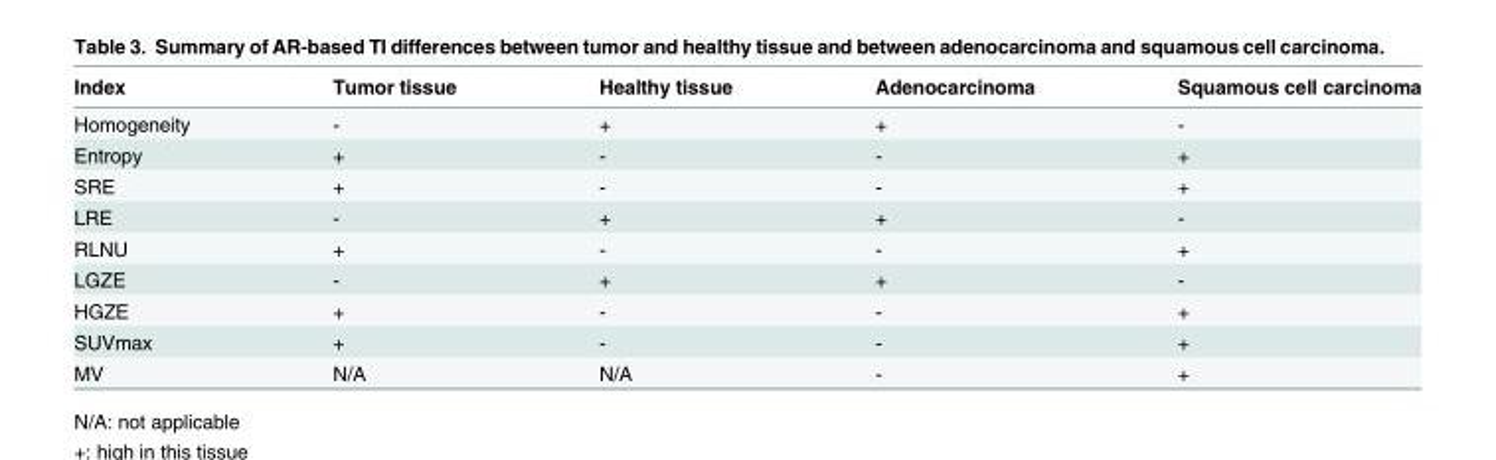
<table><thead><tr><td>Index</td><td>Tumor tissue</td><td>Healthy tissue</td><td>Adenocarcinoma</td><td>Squamous cell carcinoma</td></tr></thead><tbody><tr><td>Homogeneity</td><td>-</td><td>+</td><td>+</td><td>-</td></tr><tr><td>Entropy</td><td>+</td><td>-</td><td>-</td><td>+</td></tr><tr><td>SRE</td><td>+</td><td>-</td><td>-</td><td>+</td></tr><tr><td>LRE</td><td>-</td><td>+</td><td>+</td><td>-</td></tr><tr><td>RLNU</td><td>+</td><td>-</td><td>-</td><td>+</td></tr><tr><td>LGZE</td><td>-</td><td>+</td><td>+</td><td>-</td></tr><tr><td>HGZE</td><td>+</td><td>-</td><td>-</td><td>+</td></tr><tr><td>SUVmax</td><td>+</td><td>-</td><td>-</td><td>+</td></tr><tr><td>MV</td><td>N/A</td><td>N/A</td><td>-</td><td>+</td></tr></tbody></table>